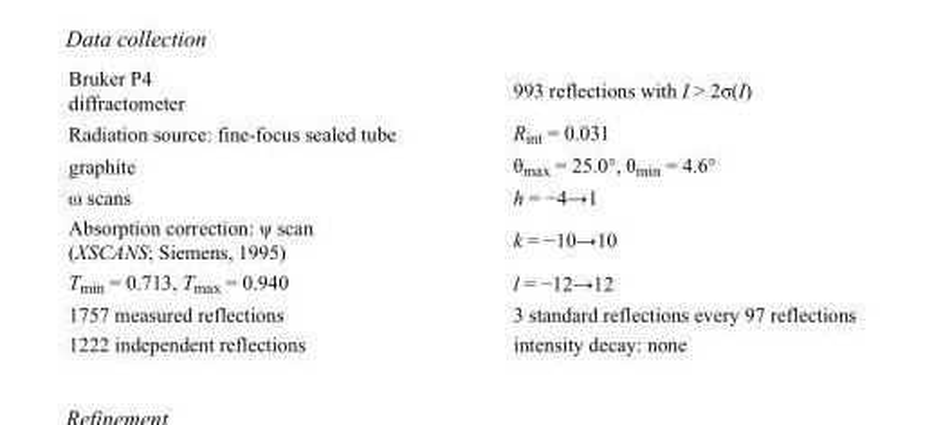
<table><tbody><tr><td>Bruker P4 diffractometer</td><td>993 reflections with I &gt; 2σ(I)</td></tr><tr><td>Radiation source: fine-focus sealed tube</td><td>R<sub>int</sub> = 0.031</td></tr><tr><td>graphite</td><td>θ<sub>max</sub> = 25.0°, θ<sub>min</sub> = 4.6°</td></tr><tr><td>ω scans</td><td>h = −4→1</td></tr><tr><td>Absorption correction: ψ scan (XSCANS; Siemens, 1995)</td><td>k = −10→10</td></tr><tr><td>T<sub>min</sub> = 0.713, T<sub>max</sub> = 0.940</td><td>l = −12→12</td></tr><tr><td>1757 measured reflections</td><td>3 standard reflections every 97 reflections</td></tr><tr><td>1222 independent reflections</td><td>intensity decay: none</td></tr></tbody></table>